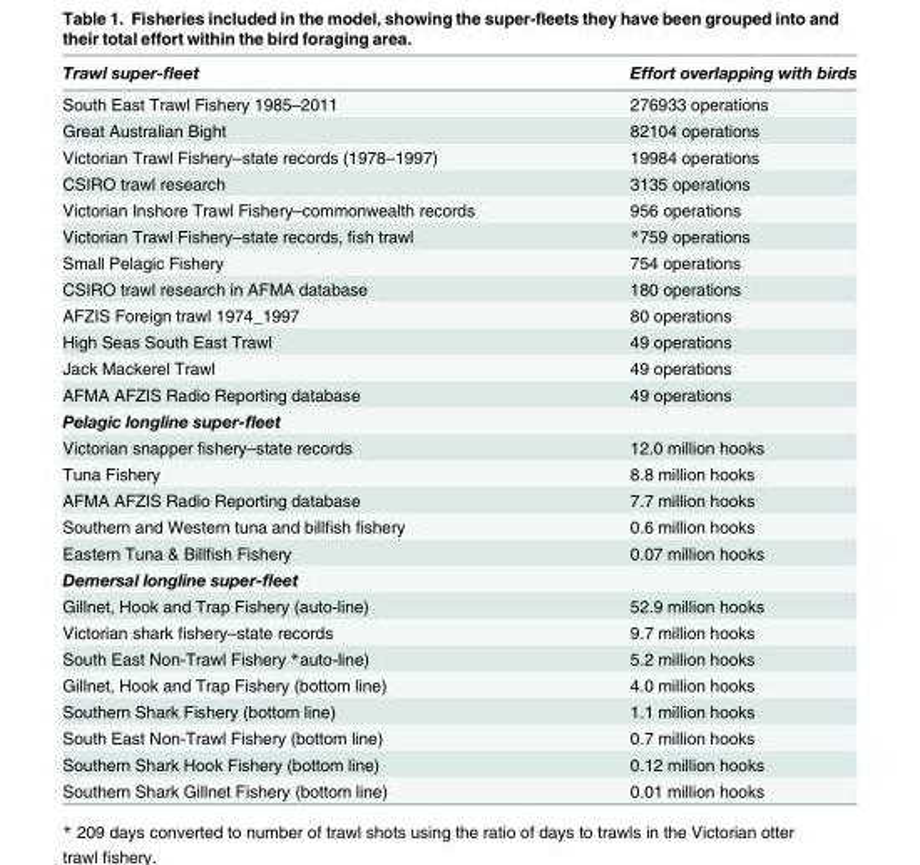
<table><thead><tr><td>Trawl super-fleet</td><td>Effort overlapping with birds</td></tr></thead><tbody><tr><td>South East Trawl Fishery 1985–2011</td><td>276933 operations</td></tr><tr><td>Great Australian Bight</td><td>82104 operations</td></tr><tr><td>Victorian Trawl Fishery–state records (1978–1997)</td><td>19984 operations</td></tr><tr><td>CSIRO trawl research</td><td>3135 operations</td></tr><tr><td>Victorian Inshore Trawl Fishery–commonwealth records</td><td>956 operations</td></tr><tr><td>Victorian Trawl Fishery–state records, fish trawl</td><td>*759 operations</td></tr><tr><td>Small Pelagic Fishery</td><td>754 operations</td></tr><tr><td>CSIRO trawl research in AFMA database</td><td>180 operations</td></tr><tr><td>AFZIS Foreign trawl 1974_1997</td><td>80 operations</td></tr><tr><td>High Seas South East Trawl</td><td>49 operations</td></tr><tr><td>Jack Mackerel Trawl</td><td>49 operations</td></tr><tr><td>AFMA AFZIS Radio Reporting database</td><td>49 operations</td></tr><tr><td colspan="2">Pelagic longline super-fleet</td></tr><tr><td>Victorian snapper fishery–state records</td><td>12.0 million hooks</td></tr><tr><td>Tuna Fishery</td><td>8.8 million hooks</td></tr><tr><td>AFMA AFZIS Radio Reporting database</td><td>7.7 million hooks</td></tr><tr><td>Southern and Western tuna and billfish fishery</td><td>0.6 million hooks</td></tr><tr><td>Eastern Tuna &amp; Billfish Fishery</td><td>0.07 million hooks</td></tr><tr><td colspan="2">Demersal longline super-fleet</td></tr><tr><td>Gillnet, Hook and Trap Fishery (auto-line)</td><td>52.9 million hooks</td></tr><tr><td>Victorian shark fishery–state records</td><td>9.7 million hooks</td></tr><tr><td>South East Non-Trawl Fishery *auto-line)</td><td>5.2 million hooks</td></tr><tr><td>Gillnet, Hook and Trap Fishery (bottom line)</td><td>4.0 million hooks</td></tr><tr><td>Southern Shark Fishery (bottom line)</td><td>1.1 million hooks</td></tr><tr><td>South East Non-Trawl Fishery (bottom line)</td><td>0.7 million hooks</td></tr><tr><td>Southern Shark Hook Fishery (bottom line)</td><td>0.12 million hooks</td></tr><tr><td>Southern Shark Gillnet Fishery (bottom line)</td><td>0.01 million hooks</td></tr></tbody></table>